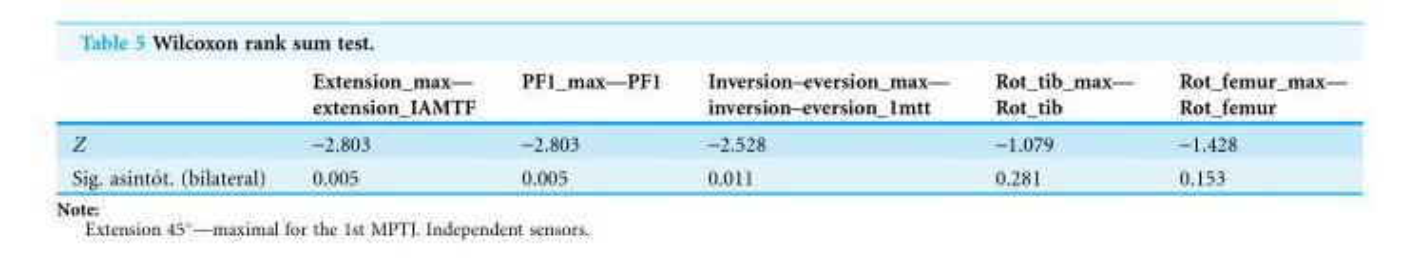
<table><thead><tr><td></td><td>Extension_max— extension_IAMTF</td><td>PF1_max—PF1</td><td>Inversion–eversion_max— inversion–eversion_1mtt</td><td>Rot_tib_max— Rot_tib</td><td>Rot_femur_max— Rot_femur</td></tr></thead><tbody><tr><td>Z</td><td>-2.803</td><td>-2.803</td><td>-2.528</td><td>-1.079</td><td>-1.428</td></tr><tr><td>Sig. asinto´t. (bilateral)</td><td>0.005</td><td>0.005</td><td>0.011</td><td>0.281</td><td>0.153</td></tr></tbody></table>